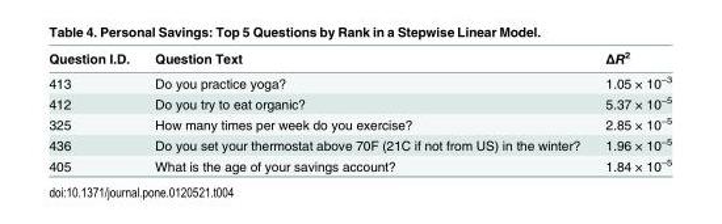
<table><thead><tr><td>Question I.D.</td><td>Question Text</td><td>ΔR<sup>2</sup></td></tr></thead><tbody><tr><td>413</td><td>Do you practice yoga?</td><td>1.05 × 10<sup>−3</sup></td></tr><tr><td>412</td><td>Do you try to eat organic?</td><td>5.37 × 10<sup>−5</sup></td></tr><tr><td>325</td><td>How many times per week do you exercise?</td><td>2.85 × 10<sup>−5</sup></td></tr><tr><td>436</td><td>Do you set your thermostat above 70F (21C if not from US) in the winter?</td><td>1.96 × 10<sup>−5</sup></td></tr><tr><td>405</td><td>What is the age of your savings account?</td><td>1.84 × 10<sup>−5</sup></td></tr></tbody></table>